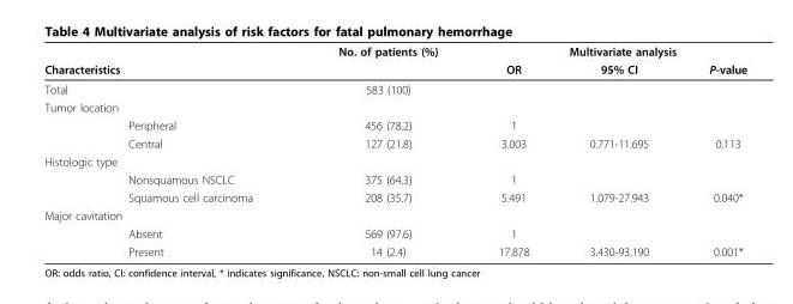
<table><thead><tr><td></td><td></td><td rowspan="2">No. of patients (%)</td><td colspan="3">Multivariate analysis</td></tr><tr><td colspan="2">Characteristics</td><td>OR</td><td>95% CI</td><td>P-value</td></tr></thead><tbody><tr><td>Total</td><td></td><td>583 (100)</td><td></td><td></td><td></td></tr><tr><td colspan="6">Tumor location</td></tr><tr><td></td><td>Peripheral</td><td>456 (78.2)</td><td>1</td><td></td><td></td></tr><tr><td></td><td>Central</td><td>127 (21.8)</td><td>3.003</td><td>0.771-11.695</td><td>0.113</td></tr><tr><td colspan="6">Histologic type</td></tr><tr><td></td><td>Nonsquamous NSCLC</td><td>375 (64.3)</td><td>1</td><td></td><td></td></tr><tr><td></td><td>Squamous cell carcinoma</td><td>208 (35.7)</td><td>5.491</td><td>1.079-27.943</td><td>0.040*</td></tr><tr><td colspan="6">Major cavitation</td></tr><tr><td></td><td>Absent</td><td>569 (97.6)</td><td>1</td><td></td><td></td></tr><tr><td></td><td>Present</td><td>14 (2.4)</td><td>17.878</td><td>3.430-93.190</td><td>0.001*</td></tr></tbody></table>